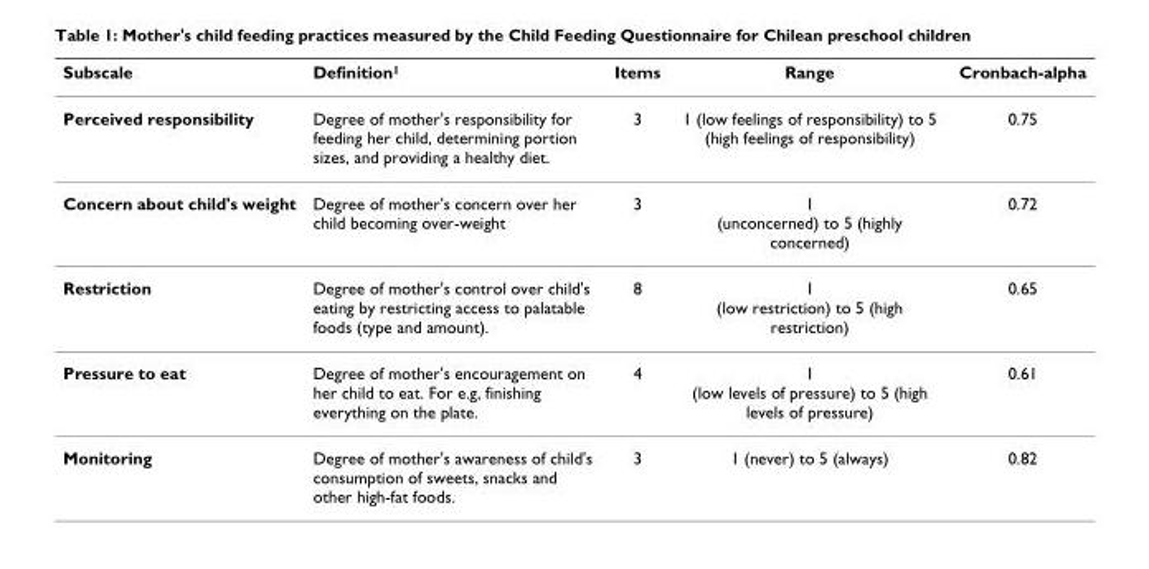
<table><thead><tr><td>Subscale</td><td>Definition<sup>1</sup></td><td>Items</td><td>Range</td><td>Cronbach-alpha</td></tr></thead><tbody><tr><td>Perceived responsibility</td><td>Degree of mother&#x27;s responsibility for feeding her child, determining portion sizes, and providing a healthy diet.</td><td>3</td><td>1 (low feelings of responsibility) to 5 (high feelings of responsibility)</td><td>0.75</td></tr><tr><td>Concern about child&#x27;s weight</td><td>Degree of mother&#x27;s concern over her child becoming over-weight</td><td>3</td><td>1 (unconcerned) to 5 (highly concerned)</td><td>0.72</td></tr><tr><td>Restriction</td><td>Degree of mother&#x27;s control over child&#x27;s eating by restricting access to palatable foods (type and amount).</td><td>8</td><td>1 (low restriction) to 5 (high restriction)</td><td>0.65</td></tr><tr><td>Pressure to eat</td><td>Degree of mother&#x27;s encouragement on her child to eat. For e.g, finishing everything on the plate.</td><td>4</td><td>1 (low levels of pressure) to 5 (high levels of pressure)</td><td>0.61</td></tr><tr><td>Monitoring</td><td>Degree of mother&#x27;s awareness of child&#x27;s consumption of sweets, snacks and other high-fat foods.</td><td>3</td><td>1 (never) to 5 (always)</td><td>0.82</td></tr></tbody></table>